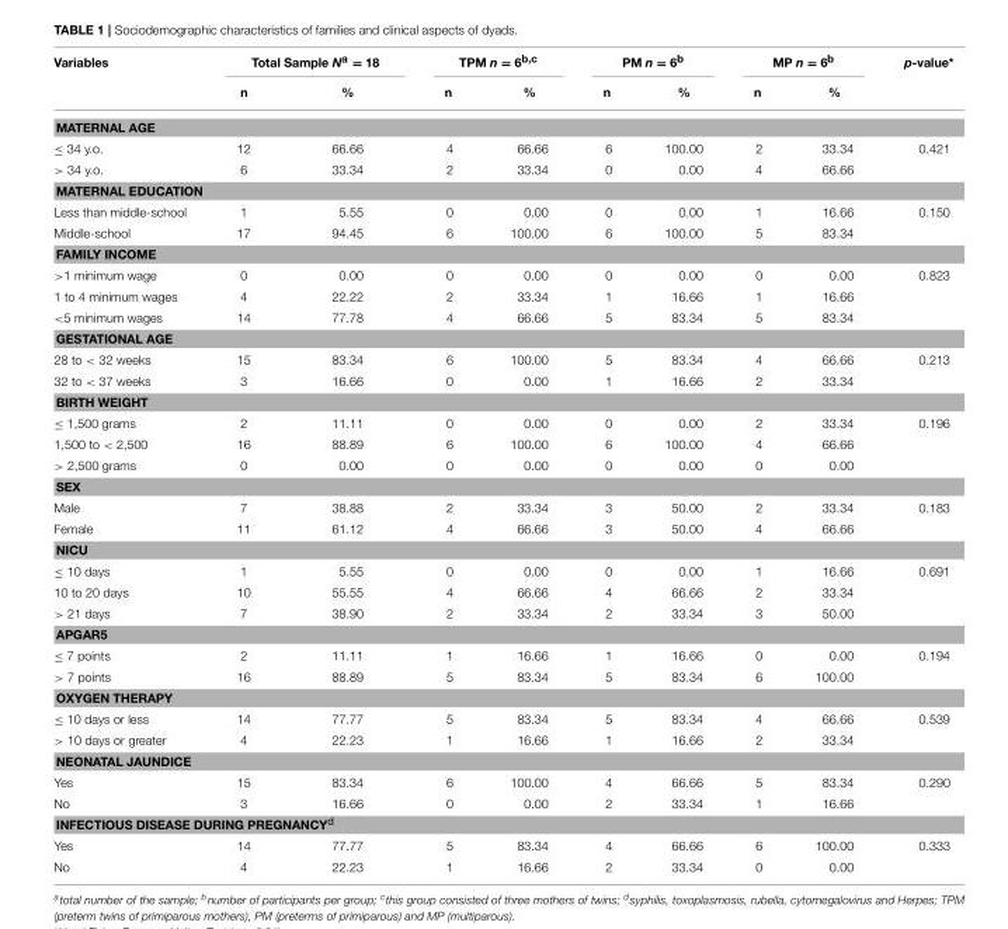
<table><thead><tr><td rowspan="2">Variables</td><td colspan="2">Total Sample N<sup>a</sup> = 18</td><td colspan="2">TPM n = 6<sup>b,c</sup></td><td colspan="2">PM n = 6<sup>b</sup></td><td colspan="2">MP n = 6<sup>b</sup></td><td rowspan="2">p-value*</td></tr><tr><td>n</td><td>%</td><td>n</td><td>%</td><td>n</td><td>%</td><td>n</td><td>%</td></tr></thead><tbody><tr><td colspan="10">MATERNAL AGE</td></tr><tr><td>≤ 34 y.o.</td><td>12</td><td>66.66</td><td>4</td><td>66.66</td><td>6</td><td>100.00</td><td>2</td><td>33.34</td><td>0.421</td></tr><tr><td>&gt; 34 y.o.</td><td>6</td><td>33.34</td><td>2</td><td>33.34</td><td>0</td><td>0.00</td><td>4</td><td>66.66</td><td></td></tr><tr><td colspan="10">MATERNAL EDUCATION</td></tr><tr><td>Less than middle-school</td><td>1</td><td>5.55</td><td>0</td><td>0.00</td><td>0</td><td>0.00</td><td>1</td><td>16.66</td><td>0.150</td></tr><tr><td>Middle-school</td><td>17</td><td>94.45</td><td>6</td><td>100.00</td><td>6</td><td>100.00</td><td>5</td><td>83.34</td><td></td></tr><tr><td colspan="10">FAMILY INCOME</td></tr><tr><td>&gt;1 minimum wage</td><td>0</td><td>0.00</td><td>0</td><td>0.00</td><td>0</td><td>0.00</td><td>0</td><td>0.00</td><td>0.823</td></tr><tr><td>1 to 4 minimum wages</td><td>4</td><td>22.22</td><td>2</td><td>33.34</td><td>1</td><td>16.66</td><td>1</td><td>16.66</td><td></td></tr><tr><td>&lt;5 minimum wages</td><td>14</td><td>77.78</td><td>4</td><td>66.66</td><td>5</td><td>83.34</td><td>5</td><td>83.34</td><td></td></tr><tr><td colspan="10">GESTATIONAL AGE</td></tr><tr><td>28 to &lt; 32 weeks</td><td>15</td><td>83.34</td><td>6</td><td>100.00</td><td>5</td><td>83.34</td><td>4</td><td>66.66</td><td>0.213</td></tr><tr><td>32 to &lt; 37 weeks</td><td>3</td><td>16.66</td><td>0</td><td>0.00</td><td>1</td><td>16.66</td><td>2</td><td>33.34</td><td></td></tr><tr><td colspan="10">BIRTH WEIGHT</td></tr><tr><td>≤ 1,500 grams</td><td>2</td><td>11.11</td><td>0</td><td>0.00</td><td>0</td><td>0.00</td><td>2</td><td>33.34</td><td>0.196</td></tr><tr><td>1,500 to &lt; 2,500</td><td>16</td><td>88.89</td><td>6</td><td>100.00</td><td>6</td><td>100.00</td><td>4</td><td>66.66</td><td></td></tr><tr><td>&gt; 2,500 grams</td><td>0</td><td>0.00</td><td>0</td><td>0.00</td><td>0</td><td>0.00</td><td>0</td><td>0.00</td><td></td></tr><tr><td colspan="10">SEX</td></tr><tr><td>Male</td><td>7</td><td>38.88</td><td>2</td><td>33.34</td><td>3</td><td>50.00</td><td>2</td><td>33.34</td><td>0.183</td></tr><tr><td>Female</td><td>11</td><td>61.12</td><td>4</td><td>66.66</td><td>3</td><td>50.00</td><td>4</td><td>66.66</td><td></td></tr><tr><td colspan="10">NICU</td></tr><tr><td>≤ 10 days</td><td>1</td><td>5.55</td><td>0</td><td>0.00</td><td>0</td><td>0.00</td><td>1</td><td>16.66</td><td>0.691</td></tr><tr><td>10 to 20 days</td><td>10</td><td>55.55</td><td>4</td><td>66.66</td><td>4</td><td>66.66</td><td>2</td><td>33.34</td><td></td></tr><tr><td>&gt; 21 days</td><td>7</td><td>38.90</td><td>2</td><td>33.34</td><td>2</td><td>33.34</td><td>3</td><td>50.00</td><td></td></tr><tr><td colspan="10">APGAR5</td></tr><tr><td>≤ 7 points</td><td>2</td><td>11.11</td><td>1</td><td>16.66</td><td>1</td><td>16.66</td><td>0</td><td>0.00</td><td>0.194</td></tr><tr><td>&gt; 7 points</td><td>16</td><td>88.89</td><td>5</td><td>83.34</td><td>5</td><td>83.34</td><td>6</td><td>100.00</td><td></td></tr><tr><td colspan="10">OXYGEN THERAPY</td></tr><tr><td>≤ 10 days or less</td><td>14</td><td>77.77</td><td>5</td><td>83.34</td><td>5</td><td>83.34</td><td>4</td><td>66.66</td><td>0.539</td></tr><tr><td>&gt; 10 days or greater</td><td>4</td><td>22.23</td><td>1</td><td>16.66</td><td>1</td><td>16.66</td><td>2</td><td>33.34</td><td></td></tr><tr><td colspan="10">NEONATAL JAUNDICE</td></tr><tr><td>Yes</td><td>15</td><td>83.34</td><td>6</td><td>100.00</td><td>4</td><td>66.66</td><td>5</td><td>83.34</td><td>0.290</td></tr><tr><td>No</td><td>3</td><td>16.66</td><td>0</td><td>0.00</td><td>2</td><td>33.34</td><td>1</td><td>16.66</td><td></td></tr><tr><td colspan="10">INFECTIOUS DISEASE DURING PREGNANCY<sup>d</sup></td></tr><tr><td>Yes</td><td>14</td><td>77.77</td><td>5</td><td>83.34</td><td>4</td><td>66.66</td><td>6</td><td>100.00</td><td>0.333</td></tr><tr><td>No</td><td>4</td><td>22.23</td><td>1</td><td>16.66</td><td>2</td><td>33.34</td><td>0</td><td>0.00</td><td></td></tr></tbody></table>